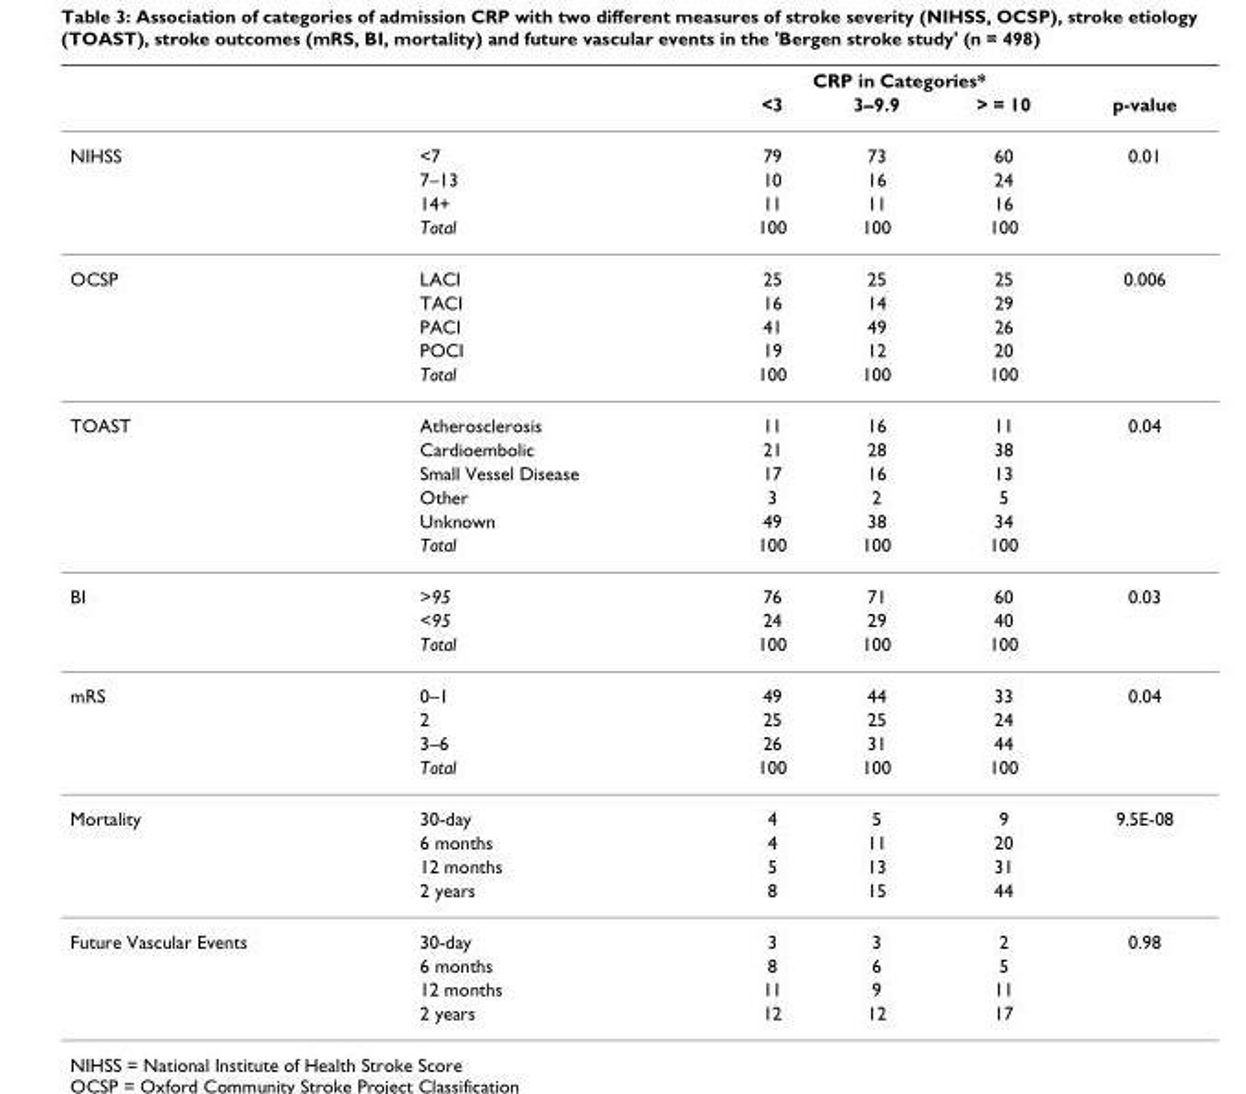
<table><thead><tr><td rowspan="2"></td><td rowspan="2"></td><td colspan="3">CRP in Categories*</td><td rowspan="2">p-value</td></tr><tr><td>&lt;3</td><td>3–9.9</td><td>&gt; = 10</td></tr></thead><tbody><tr><td rowspan="4">NIHSS</td><td>&lt;7</td><td>79</td><td>73</td><td>60</td><td>0.01</td></tr><tr><td>7–13</td><td>10</td><td>16</td><td>24</td><td></td></tr><tr><td>14+</td><td>11</td><td>11</td><td>16</td><td></td></tr><tr><td>Total</td><td>100</td><td>100</td><td>100</td><td></td></tr><tr><td rowspan="5">OCSP</td><td>LACI</td><td>25</td><td>25</td><td>25</td><td>0.006</td></tr><tr><td>TACI</td><td>16</td><td>14</td><td>29</td><td></td></tr><tr><td>PACI</td><td>41</td><td>49</td><td>26</td><td></td></tr><tr><td>POCI</td><td>19</td><td>12</td><td>20</td><td></td></tr><tr><td>Total</td><td>100</td><td>100</td><td>100</td><td></td></tr><tr><td rowspan="6">TOAST</td><td>Atherosclerosis</td><td>11</td><td>16</td><td>11</td><td>0.04</td></tr><tr><td>Cardioembolic</td><td>21</td><td>28</td><td>38</td><td></td></tr><tr><td>Small Vessel Disease</td><td>17</td><td>16</td><td>13</td><td></td></tr><tr><td>Other</td><td>3</td><td>2</td><td>5</td><td></td></tr><tr><td>Unknown</td><td>49</td><td>38</td><td>34</td><td></td></tr><tr><td>Total</td><td>100</td><td>100</td><td>100</td><td></td></tr><tr><td rowspan="3">BI</td><td>&gt;95</td><td>76</td><td>71</td><td>60</td><td>0.03</td></tr><tr><td>&lt;95</td><td>24</td><td>29</td><td>40</td><td></td></tr><tr><td>Total</td><td>100</td><td>100</td><td>100</td><td></td></tr><tr><td rowspan="4">mRS</td><td>0–1</td><td>49</td><td>44</td><td>33</td><td>0.04</td></tr><tr><td>2</td><td>25</td><td>25</td><td>24</td><td></td></tr><tr><td>3–6</td><td>26</td><td>31</td><td>44</td><td></td></tr><tr><td>Total</td><td>100</td><td>100</td><td>100</td><td></td></tr><tr><td rowspan="4">Mortality</td><td>30-day</td><td>4</td><td>5</td><td>9</td><td>9.5E-08</td></tr><tr><td>6 months</td><td>4</td><td>11</td><td>20</td><td></td></tr><tr><td>12 months</td><td>5</td><td>13</td><td>31</td><td></td></tr><tr><td>2 years</td><td>8</td><td>15</td><td>44</td><td></td></tr><tr><td rowspan="4">Future Vascular Events</td><td>30-day</td><td>3</td><td>3</td><td>2</td><td>0.98</td></tr><tr><td>6 months</td><td>8</td><td>6</td><td>5</td><td></td></tr><tr><td>12 months</td><td>11</td><td>9</td><td>11</td><td></td></tr><tr><td>2 years</td><td>12</td><td>12</td><td>17</td><td></td></tr></tbody></table>